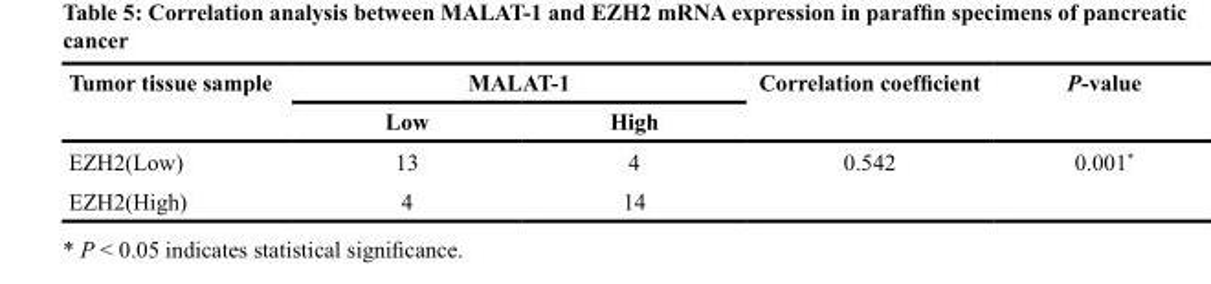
<table><thead><tr><td rowspan="2">Tumor tissue sample</td><td colspan="2">MALAT-1</td><td rowspan="2">Correlation coefficient</td><td rowspan="2">P-value</td></tr><tr><td>Low</td><td>High</td></tr></thead><tbody><tr><td>EZH2(Low)</td><td>13</td><td>4</td><td>0.542</td><td>0.001*</td></tr><tr><td>EZH2(High)</td><td>4</td><td>14</td><td></td><td></td></tr></tbody></table>